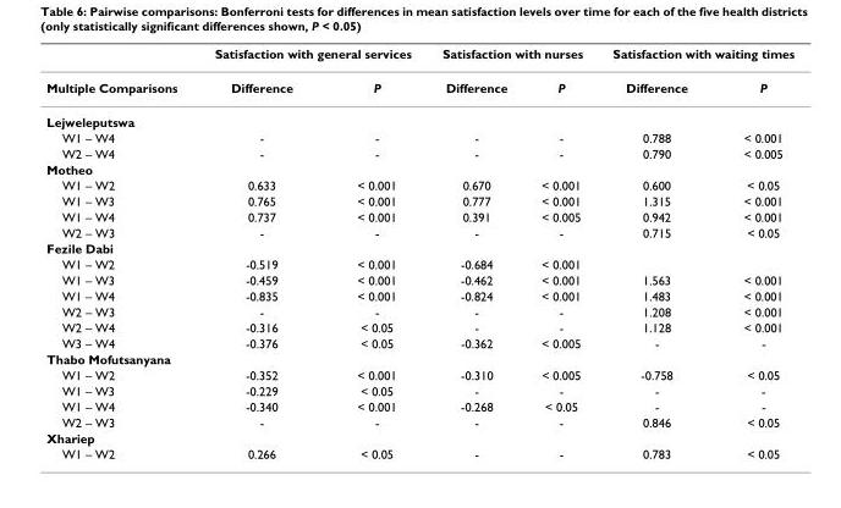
<table><thead><tr><td rowspan="2">Multiple Comparisons</td><td colspan="2">Satisfaction with general services</td><td colspan="2">Satisfaction with nurses</td><td colspan="2">Satisfaction with waiting times</td></tr><tr><td>Difference</td><td>P</td><td>Difference</td><td>P</td><td>Difference</td><td>P</td></tr></thead><tbody><tr><td colspan="7">Lejweleputswa</td></tr><tr><td>W1 – W4</td><td>-</td><td>-</td><td>-</td><td>-</td><td>0.788</td><td>&lt; 0.001</td></tr><tr><td>W2 – W4</td><td>-</td><td>-</td><td>-</td><td>-</td><td>0.790</td><td>&lt; 0.005</td></tr><tr><td colspan="7">Motheo</td></tr><tr><td>W1 – W2</td><td>0.633</td><td>&lt; 0.001</td><td>0.670</td><td>&lt; 0.001</td><td>0.600</td><td>&lt; 0.05</td></tr><tr><td>W1 – W3</td><td>0.765</td><td>&lt; 0.001</td><td>0.777</td><td>&lt; 0.001</td><td>1.315</td><td>&lt; 0.001</td></tr><tr><td>W1 – W4</td><td>0.737</td><td>&lt; 0.001</td><td>0.391</td><td>&lt; 0.005</td><td>0.942</td><td>&lt; 0.001</td></tr><tr><td>W2 – W3</td><td>-</td><td>-</td><td>-</td><td>-</td><td>0.715</td><td>&lt; 0.05</td></tr><tr><td colspan="7">Fezile Dabi</td></tr><tr><td>W1 – W2</td><td>-0.519</td><td>&lt; 0.001</td><td>-0.684</td><td>&lt; 0.001</td><td></td><td></td></tr><tr><td>W1 – W3</td><td>-0.459</td><td>&lt; 0.001</td><td>-0.462</td><td>&lt; 0.001</td><td>1.563</td><td>&lt; 0.001</td></tr><tr><td>W1 – W4</td><td>-0.835</td><td>&lt; 0.001</td><td>-0.824</td><td>&lt; 0.001</td><td>1.483</td><td>&lt; 0.001</td></tr><tr><td>W2 – W3</td><td>-</td><td>-</td><td>-</td><td>-</td><td>1.208</td><td>&lt; 0.001</td></tr><tr><td>W2 – W4</td><td>-0.316</td><td>&lt; 0.05</td><td>-</td><td>-</td><td>1.128</td><td>&lt; 0.001</td></tr><tr><td>W3 – W4</td><td>-0.376</td><td>&lt; 0.05</td><td>-0.362</td><td>&lt; 0.005</td><td>-</td><td>-</td></tr><tr><td colspan="7">Thabo Mofutsanyana</td></tr><tr><td>W1 – W2</td><td>-0.352</td><td>&lt; 0.001</td><td>-0.310</td><td>&lt; 0.005</td><td>-0.758</td><td>&lt; 0.05</td></tr><tr><td>W1 – W3</td><td>-0.229</td><td>&lt; 0.05</td><td>-</td><td>-</td><td>-</td><td>-</td></tr><tr><td>W1 – W4</td><td>-0.340</td><td>&lt; 0.001</td><td>-0.268</td><td>&lt; 0.05</td><td>-</td><td>-</td></tr><tr><td>W2 – W3</td><td>-</td><td>-</td><td>-</td><td>-</td><td>0.846</td><td>&lt; 0.05</td></tr><tr><td colspan="7">Xhariep</td></tr><tr><td>W1 – W2</td><td>0.266</td><td>&lt; 0.05</td><td>-</td><td>-</td><td>0.783</td><td>&lt; 0.05</td></tr></tbody></table>